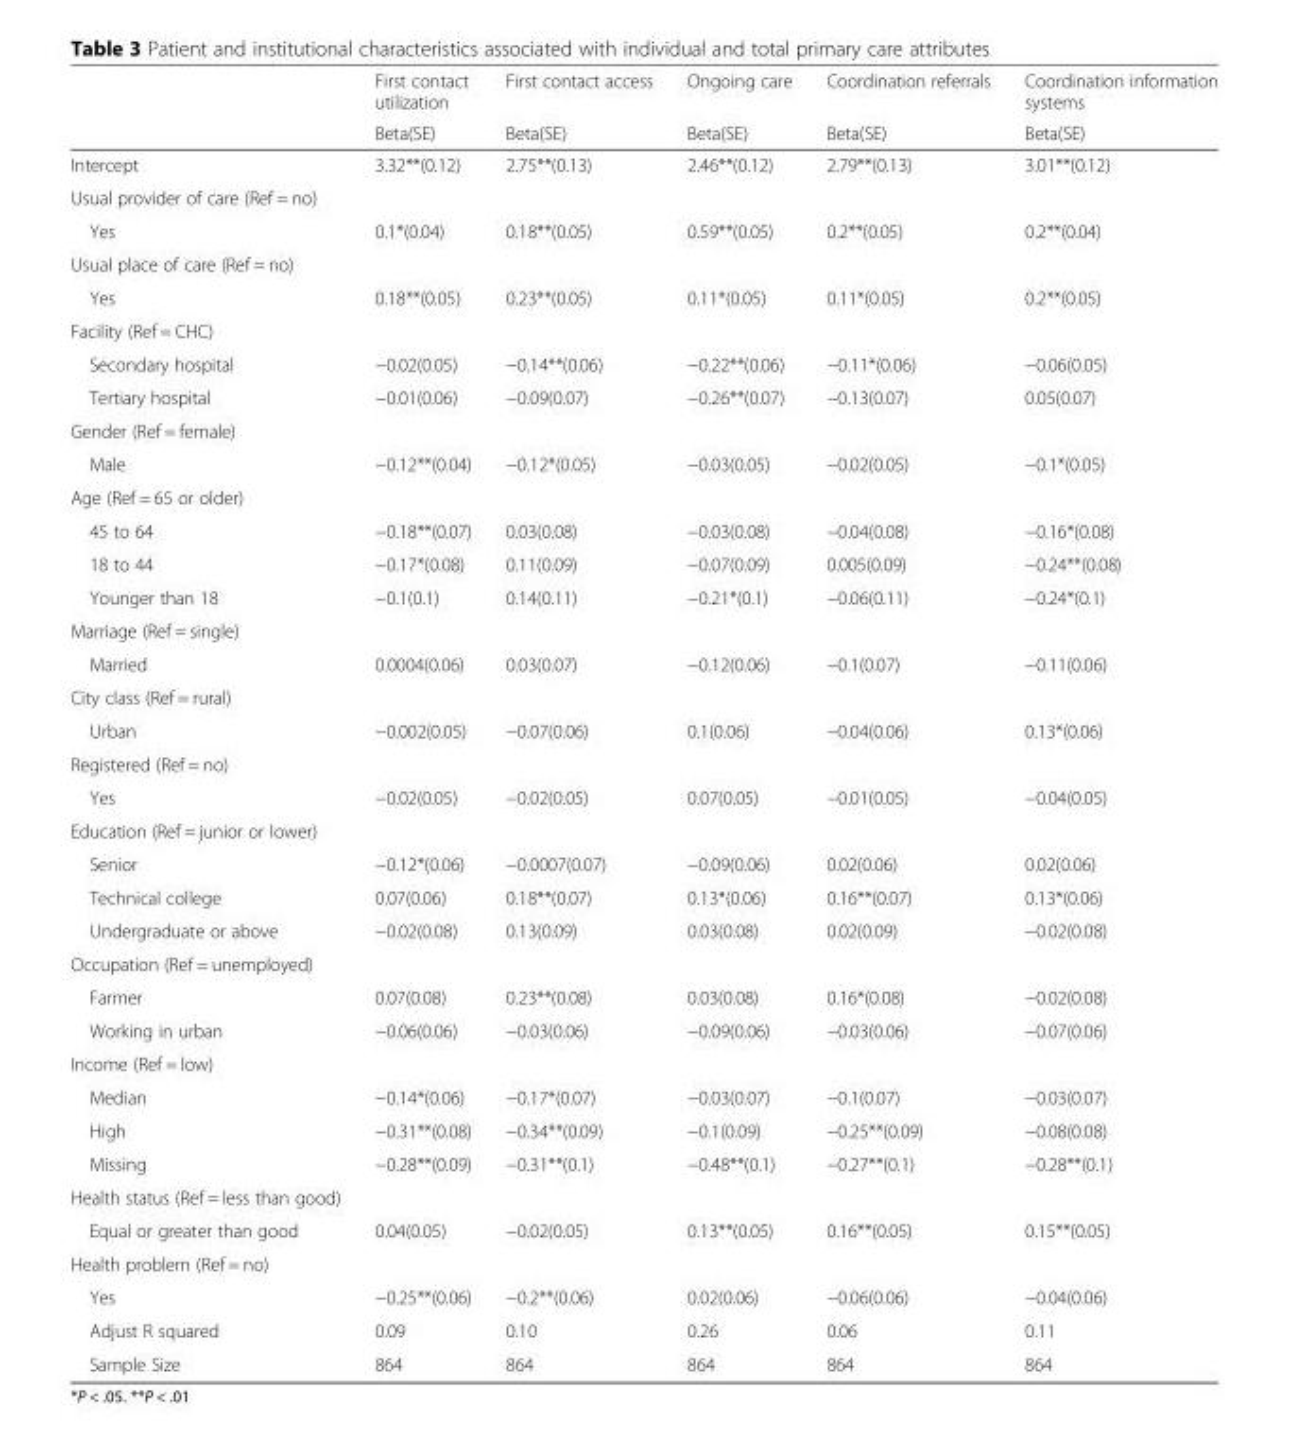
<table><thead><tr><td rowspan="2"></td><td rowspan="2">First contact utilization Beta(SE)</td><td rowspan="2">First contact access Beta(SE)</td><td rowspan="2">Ongoing care Beta(SE)</td><td rowspan="2">Coordination referrals Beta(SE)</td><td rowspan="2">Coordination information systems Beta(SE)</td></tr><tr></tr></thead><tbody><tr><td>Intercept</td><td>3.32**(0.12)</td><td>2.75**(0.13)</td><td>2.46**(0.12)</td><td>2.79**(0.13)</td><td>3.01**(0.12)</td></tr><tr><td colspan="6">Usual provider of care (Ref = no)</td></tr><tr><td>Yes</td><td>0.1*(0.04)</td><td>0.18**(0.05)</td><td>0.59**(0.05)</td><td>0.2**(0.05)</td><td>0.2**(0.04)</td></tr><tr><td colspan="6">Usual place of care (Ref = no)</td></tr><tr><td>Yes</td><td>0.18**(0.05)</td><td>0.23**(0.05)</td><td>0.11*(0.05)</td><td>0.11*(0.05)</td><td>0.2**(0.05)</td></tr><tr><td colspan="6">Facility (Ref = CHC)</td></tr><tr><td>Secondary hospital</td><td>−0.02(0.05)</td><td>−0.14**(0.06)</td><td>−0.22**(0.06)</td><td>−0.11*(0.06)</td><td>−0.06(0.05)</td></tr><tr><td>Tertiary hospital</td><td>−0.01(0.06)</td><td>−0.09(0.07)</td><td>−0.26**(0.07)</td><td>−0.13(0.07)</td><td>0.05(0.07)</td></tr><tr><td colspan="6">Gender (Ref = female)</td></tr><tr><td>Male</td><td>−0.12**(0.04)</td><td>−0.12*(0.05)</td><td>−0.03(0.05)</td><td>−0.02(0.05)</td><td>−0.1*(0.05)</td></tr><tr><td colspan="6">Age (Ref = 65 or older)</td></tr><tr><td>45 to 64</td><td>−0.18**(0.07)</td><td>0.03(0.08)</td><td>−0.03(0.08)</td><td>−0.04(0.08)</td><td>−0.16*(0.08)</td></tr><tr><td>18 to 44</td><td>−0.17*(0.08)</td><td>0.11(0.09)</td><td>−0.07(0.09)</td><td>0.005(0.09)</td><td>−0.24**(0.08)</td></tr><tr><td>Younger than 18</td><td>−0.1(0.1)</td><td>0.14(0.11)</td><td>−0.21*(0.1)</td><td>−0.06(0.11)</td><td>−0.24*(0.1)</td></tr><tr><td colspan="6">Marriage (Ref = single)</td></tr><tr><td>Married</td><td>0.0004(0.06)</td><td>0.03(0.07)</td><td>−0.12(0.06)</td><td>−0.1(0.07)</td><td>−0.11(0.06)</td></tr><tr><td colspan="6">City class (Ref = rural)</td></tr><tr><td>Urban</td><td>−0.002(0.05)</td><td>−0.07(0.06)</td><td>0.1(0.06)</td><td>−0.04(0.06)</td><td>0.13*(0.06)</td></tr><tr><td colspan="6">Registered (Ref = no)</td></tr><tr><td>Yes</td><td>−0.02(0.05)</td><td>−0.02(0.05)</td><td>0.07(0.05)</td><td>−0.01(0.05)</td><td>−0.04(0.05)</td></tr><tr><td colspan="6">Education (Ref = junior or lower)</td></tr><tr><td>Senior</td><td>−0.12*(0.06)</td><td>−0.0007(0.07)</td><td>−0.09(0.06)</td><td>0.02(0.06)</td><td>0.02(0.06)</td></tr><tr><td>Technical college</td><td>0.07(0.06)</td><td>0.18**(0.07)</td><td>0.13*(0.06)</td><td>0.16**(0.07)</td><td>0.13*(0.06)</td></tr><tr><td>Undergraduate or above</td><td>−0.02(0.08)</td><td>0.13(0.09)</td><td>0.03(0.08)</td><td>0.02(0.09)</td><td>−0.02(0.08)</td></tr><tr><td colspan="6">Occupation (Ref = unemployed)</td></tr><tr><td>Farmer</td><td>0.07(0.08)</td><td>0.23**(0.08)</td><td>0.03(0.08)</td><td>0.16*(0.08)</td><td>−0.02(0.08)</td></tr><tr><td>Working in urban</td><td>−0.06(0.06)</td><td>−0.03(0.06)</td><td>−0.09(0.06)</td><td>−0.03(0.06)</td><td>−0.07(0.06)</td></tr><tr><td colspan="6">Income (Ref = low)</td></tr><tr><td>Median</td><td>−0.14*(0.06)</td><td>−0.17*(0.07)</td><td>−0.03(0.07)</td><td>−0.1(0.07)</td><td>−0.03(0.07)</td></tr><tr><td>High</td><td>−0.31**(0.08)</td><td>−0.34**(0.09)</td><td>−0.1(0.09)</td><td>−0.25**(0.09)</td><td>−0.08(0.08)</td></tr><tr><td>Missing</td><td>−0.28**(0.09)</td><td>−0.31**(0.1)</td><td>−0.48**(0.1)</td><td>−0.27**(0.1)</td><td>−0.28**(0.1)</td></tr><tr><td colspan="6">Health status (Ref = less than good)</td></tr><tr><td>Equal or greater than good</td><td>0.04(0.05)</td><td>−0.02(0.05)</td><td>0.13**(0.05)</td><td>0.16**(0.05)</td><td>0.15**(0.05)</td></tr><tr><td colspan="6">Health problem (Ref = no)</td></tr><tr><td>Yes</td><td>−0.25**(0.06)</td><td>−0.2**(0.06)</td><td>0.02(0.06)</td><td>−0.06(0.06)</td><td>−0.04(0.06)</td></tr><tr><td>Adjust R squared</td><td>0.09</td><td>0.10</td><td>0.26</td><td>0.06</td><td>0.11</td></tr><tr><td>Sample Size</td><td>864</td><td>864</td><td>864</td><td>864</td><td>864</td></tr></tbody></table>